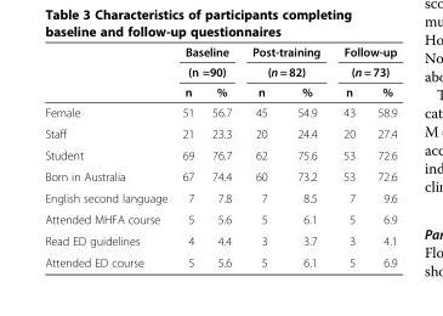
<table><thead><tr><td rowspan="3"></td><td rowspan="2" colspan="2">Baseline (n =90)</td><td rowspan="2" colspan="2">Post-training (n = 82)</td><td rowspan="2" colspan="2">Follow-up (n = 73)</td></tr><tr></tr><tr><td>n</td><td>%</td><td>n</td><td>%</td><td>n</td><td>%</td></tr></thead><tbody><tr><td>Female</td><td>51</td><td>56.7</td><td>45</td><td>54.9</td><td>43</td><td>58.9</td></tr><tr><td>Staff</td><td>21</td><td>23.3</td><td>20</td><td>24.4</td><td>20</td><td>27.4</td></tr><tr><td>Student</td><td>69</td><td>76.7</td><td>62</td><td>75.6</td><td>53</td><td>72.6</td></tr><tr><td>Born in Australia</td><td>67</td><td>74.4</td><td>60</td><td>73.2</td><td>53</td><td>72.6</td></tr><tr><td>English second language</td><td>7</td><td>7.8</td><td>7</td><td>8.5</td><td>7</td><td>9.6</td></tr><tr><td>Attended MHFA course</td><td>5</td><td>5.6</td><td>5</td><td>6.1</td><td>5</td><td>6.9</td></tr><tr><td>Read ED guidelines</td><td>4</td><td>4.4</td><td>3</td><td>3.7</td><td>3</td><td>4.1</td></tr><tr><td>Attended ED course</td><td>5</td><td>5.6</td><td>5</td><td>6.1</td><td>5</td><td>6.9</td></tr></tbody></table>